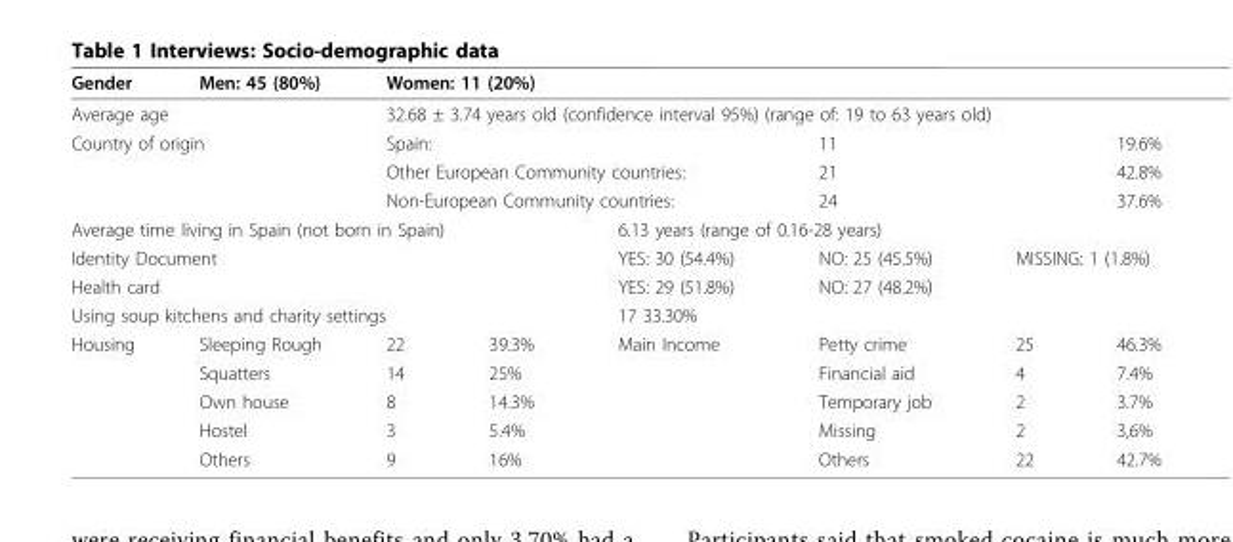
<table><thead><tr><td>Gender</td><td>Men: 45 (80%)</td><td colspan="6">Women: 11 (20%)</td></tr></thead><tbody><tr><td colspan="2">Average age</td><td colspan="6">32.68 ± 3.74 years old (confidence interval 95%) (range of: 19 to 63 years old)</td></tr><tr><td colspan="2">Country of origin</td><td colspan="3">Spain:</td><td colspan="2">11</td><td>19.6%</td></tr><tr><td></td><td></td><td colspan="3">Other European Community countries:</td><td colspan="2">21</td><td>42.8%</td></tr><tr><td></td><td></td><td colspan="3">Non-European Community countries:</td><td colspan="2">24</td><td>37.6%</td></tr><tr><td colspan="4">Average time living in Spain (not born in Spain)</td><td colspan="4">6.13 years (range of 0.16-28 years)</td></tr><tr><td colspan="4">Identity Document</td><td>YES: 30 (54.4%)</td><td>NO: 25 (45.5%)</td><td colspan="2">MISSING: 1 (1.8%)</td></tr><tr><td colspan="4">Health card</td><td>YES: 29 (51.8%)</td><td>NO: 27 (48.2%)</td><td colspan="2"></td></tr><tr><td colspan="4">Using soup kitchens and charity settings</td><td colspan="4">17 33.30%</td></tr><tr><td rowspan="5">Housing</td><td>Sleeping Rough</td><td>22</td><td>39.3%</td><td>Main Income</td><td>Petty crime</td><td>25</td><td>46.3%</td></tr><tr><td>Squatters</td><td>14</td><td>25%</td><td></td><td>Financial aid</td><td>4</td><td>7.4%</td></tr><tr><td>Own house</td><td>8</td><td>14.3%</td><td></td><td>Temporary job</td><td>2</td><td>3.7%</td></tr><tr><td>Hostel</td><td>3</td><td>5.4%</td><td></td><td>Missing</td><td>2</td><td>3,6%</td></tr><tr><td>Others</td><td>9</td><td>16%</td><td></td><td>Others</td><td>22</td><td>42.7%</td></tr></tbody></table>